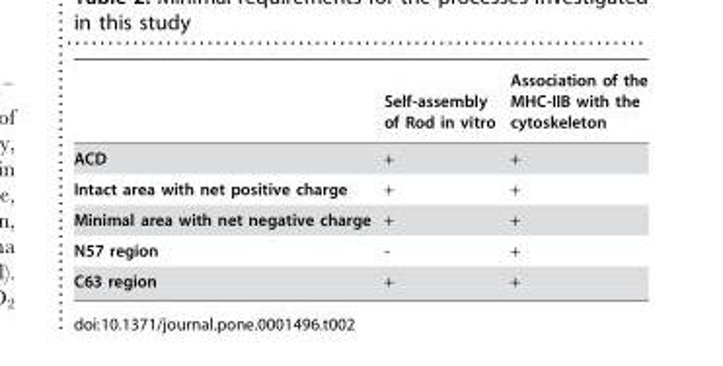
<table><thead><tr><td></td><td>Self-assembly of Rod in vitro</td><td>Association of the MHC-IIB with the cytoskeleton</td></tr></thead><tbody><tr><td>ACD</td><td>+</td><td>+</td></tr><tr><td>Intact area with net positive charge</td><td>+</td><td>+</td></tr><tr><td>Minimal area with net negative charge</td><td>+</td><td>+</td></tr><tr><td>N57 region</td><td>-</td><td>+</td></tr><tr><td>C63 region</td><td>+</td><td>+</td></tr></tbody></table>